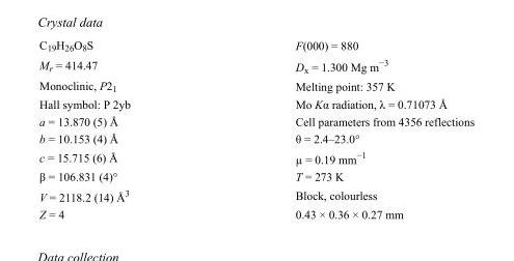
<table><tbody><tr><td>C<sub>19</sub>H<sub>26</sub>O<sub>8</sub>S</td><td>F(000) = 880</td></tr><tr><td>M<sub>r</sub> = 414.47</td><td>D<sub>x</sub> = 1.300 Mg m<sup>−3</sup></td></tr><tr><td>Monoclinic, P2<sub>1</sub></td><td>Melting point: 357 K</td></tr><tr><td>Hall symbol: P 2yb</td><td>Mo Kα radiation, λ = 0.71073 Å</td></tr><tr><td>a = 13.870 (5) Å</td><td>Cell parameters from 4356 reflections</td></tr><tr><td>b = 10.153 (4) Å</td><td>θ = 2.4–23.0°</td></tr><tr><td>c = 15.715 (6) Å</td><td>µ = 0.19 mm<sup>−1</sup></td></tr><tr><td>β = 106.831 (4)°</td><td>T = 273 K</td></tr><tr><td>V = 2118.2 (14) Å<sup>3</sup></td><td>Block, colourless</td></tr><tr><td>Z = 4</td><td>0.43 × 0.36 × 0.27 mm</td></tr></tbody></table>